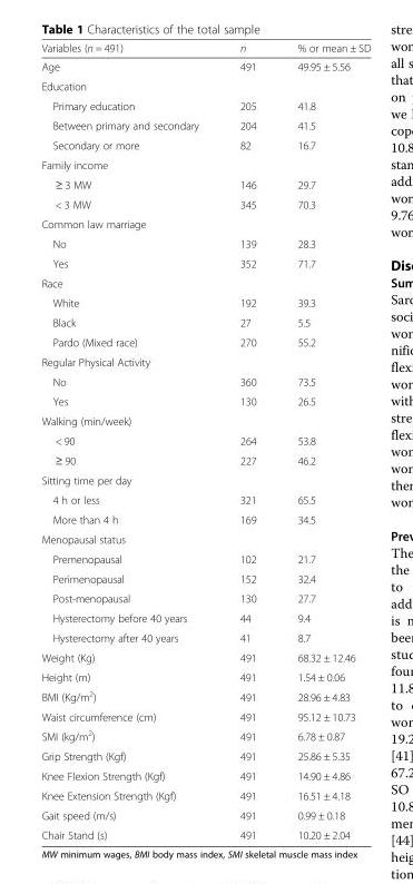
<table><thead><tr><td>Variables (n = 491)</td><td>n</td><td>% or mean ± SD</td></tr></thead><tbody><tr><td>Age</td><td>491</td><td>49.95 ± 5.56</td></tr><tr><td colspan="3">Education</td></tr><tr><td>Primary education</td><td>205</td><td>41.8</td></tr><tr><td>Between primary and secondary</td><td>204</td><td>41.5</td></tr><tr><td>Secondary or more</td><td>82</td><td>16.7</td></tr><tr><td colspan="3">Family income</td></tr><tr><td>≥ 3 MW</td><td>146</td><td>29.7</td></tr><tr><td>&lt; 3 MW</td><td>345</td><td>70.3</td></tr><tr><td colspan="3">Common law marriage</td></tr><tr><td>No</td><td>139</td><td>28.3</td></tr><tr><td>Yes</td><td>352</td><td>71.7</td></tr><tr><td colspan="3">Race</td></tr><tr><td>White</td><td>192</td><td>39.3</td></tr><tr><td>Black</td><td>27</td><td>5.5</td></tr><tr><td>Pardo (Mixed race)</td><td>270</td><td>55.2</td></tr><tr><td colspan="3">Regular Physical Activity</td></tr><tr><td>No</td><td>360</td><td>73.5</td></tr><tr><td>Yes</td><td>130</td><td>26.5</td></tr><tr><td colspan="3">Walking (min/week)</td></tr><tr><td>&lt; 90</td><td>264</td><td>53.8</td></tr><tr><td>≥ 90</td><td>227</td><td>46.2</td></tr><tr><td colspan="3">Sitting time per day</td></tr><tr><td>4 h or less</td><td>321</td><td>65.5</td></tr><tr><td>More than 4 h</td><td>169</td><td>34.5</td></tr><tr><td colspan="3">Menopausal status</td></tr><tr><td>Premenopausal</td><td>102</td><td>21.7</td></tr><tr><td>Perimenopausal</td><td>152</td><td>32.4</td></tr><tr><td>Post-menopausal</td><td>130</td><td>27.7</td></tr><tr><td>Hysterectomy before 40 years</td><td>44</td><td>9.4</td></tr><tr><td>Hysterectomy after 40 years</td><td>41</td><td>8.7</td></tr><tr><td>Weight (Kg)</td><td>491</td><td>68.32 ± 12.46</td></tr><tr><td>Height (m)</td><td>491</td><td>1.54 ± 0.06</td></tr><tr><td>BMI (Kg/m<sup>2</sup>)</td><td>491</td><td>28.96 ± 4.83</td></tr><tr><td>Waist circumference (cm)</td><td>491</td><td>95.12 ± 10.73</td></tr><tr><td>SMI (kg/m<sup>2</sup>)</td><td>491</td><td>6.78 ± 0.87</td></tr><tr><td>Grip Strength (Kgf)</td><td>491</td><td>25.86 ± 5.35</td></tr><tr><td>Knee Flexion Strength (Kgf)</td><td>491</td><td>14.90 ± 4.86</td></tr><tr><td>Knee Extension Strength (Kgf)</td><td>491</td><td>16.51 ± 4.18</td></tr><tr><td>Gait speed (m/s)</td><td>491</td><td>0.99 ± 0.18</td></tr><tr><td>Chair Stand (s)</td><td>491</td><td>10.20 ± 2.04</td></tr></tbody></table>